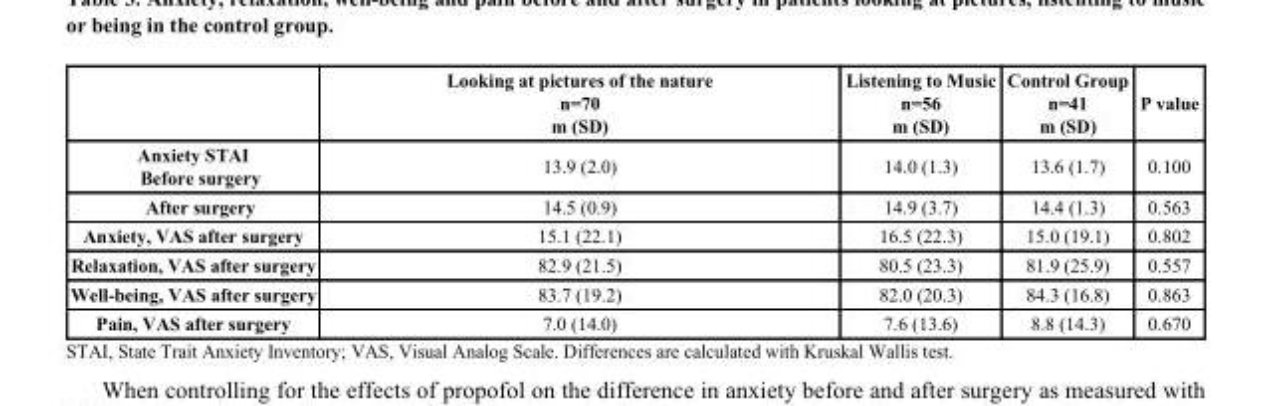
<table><thead><tr><td></td><td>Looking at pictures of the nature n=70 m (SD)</td><td>Listening to Music n=56 m (SD)</td><td>Control Group n=41 m (SD)</td><td>P value</td></tr></thead><tbody><tr><td>Anxiety STAI Before surgery</td><td>13.9 (2.0)</td><td>14.0 (1.3)</td><td>13.6 (1.7)</td><td>0.100</td></tr><tr><td>After surgery</td><td>14.5 (0.9)</td><td>14.9 (3.7)</td><td>14.4 (1.3)</td><td>0.563</td></tr><tr><td>Anxiety, VAS after surgery</td><td>15.1 (22.1)</td><td>16.5 (22.3)</td><td>15.0 (19.1)</td><td>0.802</td></tr><tr><td>Relaxation, VAS after surgery</td><td>82.9 (21.5)</td><td>80.5 (23.3)</td><td>81.9 (25.9)</td><td>0.557</td></tr><tr><td>Well-being, VAS after surgery</td><td>83.7 (19.2)</td><td>82.0 (20.3)</td><td>84.3 (16.8)</td><td>0.863</td></tr><tr><td>Pain, VAS after surgery</td><td>7.0 (14.0)</td><td>7.6 (13.6)</td><td>8.8 (14.3)</td><td>0.670</td></tr></tbody></table>